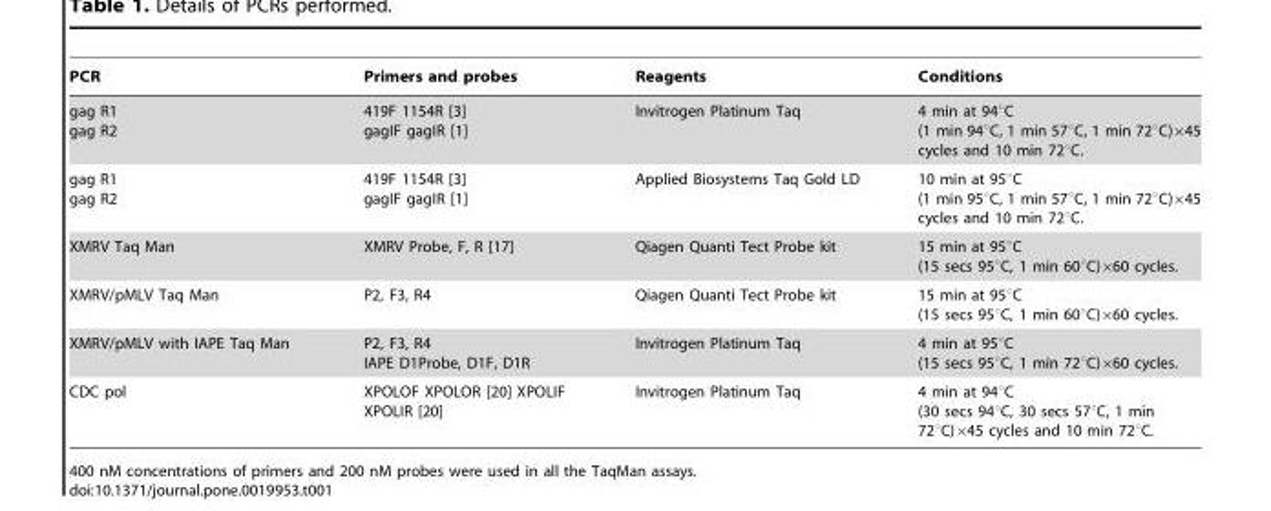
<table><thead><tr><td>PCR</td><td>Primers and probes</td><td>Reagents</td><td>Conditions</td></tr></thead><tbody><tr><td>gag R1 gag R2</td><td>419F 1154R [3] gagIF gagIR [1]</td><td>Invitrogen Platinum Taq</td><td>4 min at 94°C (1 min 94°C, 1 min 57°C, 1 min 72°C)×45 cycles and 10 min 72°C.</td></tr><tr><td>gag R1 gag R2</td><td>419F 1154R [3] gagIF gagIR [1]</td><td>Applied Biosystems Taq Gold LD</td><td>10 min at 95°C (1 min 95°C, 1 min 57°C, 1 min 72°C)×45 cycles and 10 min 72°C.</td></tr><tr><td>XMRV Taq Man</td><td>XMRV Probe, F, R [17]</td><td>Qiagen Quanti Tect Probe kit</td><td>15 min at 95°C (15 secs 95°C, 1 min 60°C)×60 cycles.</td></tr><tr><td>XMRV/pMLV Taq Man</td><td>P2, F3, R4</td><td>Qiagen Quanti Tect Probe kit</td><td>15 min at 95°C (15 secs 95°C, 1 min 60°C)×60 cycles.</td></tr><tr><td>XMRV/pMLV with IAPE Taq Man</td><td>P2, F3, R4 IAPE D1Probe, D1F, D1R</td><td>Invitrogen Platinum Taq</td><td>4 min at 95°C (15 secs 95°C, 1 min 72°C)×60 cycles.</td></tr><tr><td>CDC pol</td><td>XPOLOF XPOLOR [20] XPOLIF XPOLIR [20]</td><td>Invitrogen Platinum Taq</td><td>4 min at 94°C (30 secs 94°C, 30 secs 57°C, 1 min 72°C)×45 cycles and 10 min 72°C.</td></tr></tbody></table>